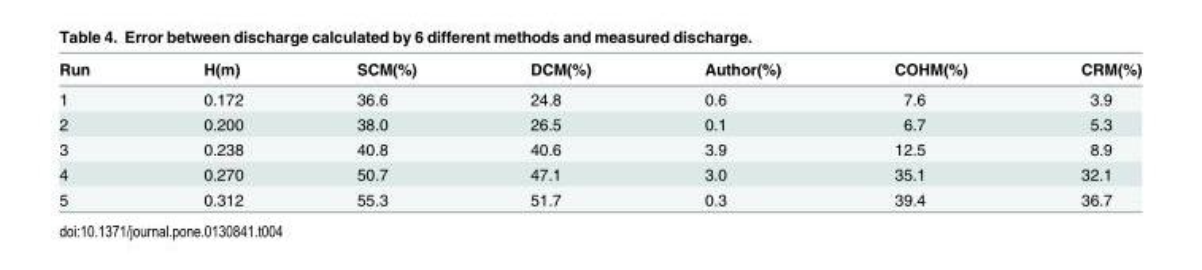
<table><thead><tr><td>Run</td><td>H(m)</td><td>SCM(%)</td><td>DCM(%)</td><td>Author(%)</td><td>COHM(%)</td><td>CRM(%)</td></tr></thead><tbody><tr><td>1</td><td>0.172</td><td>36.6</td><td>24.8</td><td>0.6</td><td>7.6</td><td>3.9</td></tr><tr><td>2</td><td>0.200</td><td>38.0</td><td>26.5</td><td>0.1</td><td>6.7</td><td>5.3</td></tr><tr><td>3</td><td>0.238</td><td>40.8</td><td>40.6</td><td>3.9</td><td>12.5</td><td>8.9</td></tr><tr><td>4</td><td>0.270</td><td>50.7</td><td>47.1</td><td>3.0</td><td>35.1</td><td>32.1</td></tr><tr><td>5</td><td>0.312</td><td>55.3</td><td>51.7</td><td>0.3</td><td>39.4</td><td>36.7</td></tr></tbody></table>